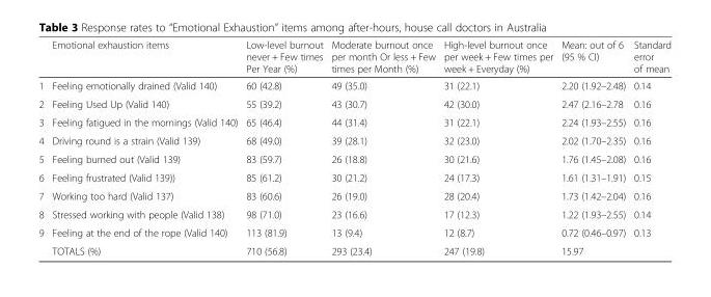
<table><thead><tr><td></td><td>Emotional exhaustion items</td><td>Low-level burnout never + Few times Per Year (%)</td><td>Moderate burnout once per month Or less + Few times per Month (%)</td><td>High-level burnout once per week + Few times per week + Everyday (%)</td><td>Mean: out of 6 (95 % CI)</td><td>Standard error of mean</td></tr></thead><tbody><tr><td>1</td><td>Feeling emotionally drained (Valid 140)</td><td>60 (42.8)</td><td>49 (35.0)</td><td>31 (22.1)</td><td>2.20 (1.92–2.48)</td><td>0.14</td></tr><tr><td>2</td><td>Feeling Used Up (Valid 140)</td><td>55 (39.2)</td><td>43 (30.7)</td><td>42 (30.0)</td><td>2.47 (2.16–2.78</td><td>0.16</td></tr><tr><td>3</td><td>Feeling fatigued in the mornings (Valid 140)</td><td>65 (46.4)</td><td>44 (31.4)</td><td>31 (22.1)</td><td>2.24 (1.93–2.55)</td><td>0.16</td></tr><tr><td>4</td><td>Driving round is a strain (Valid 139)</td><td>68 (49.0)</td><td>39 (28.1)</td><td>32 (23.0)</td><td>2.02 (1.70–2.35)</td><td>0.16</td></tr><tr><td>5</td><td>Feeling burned out (Valid 139)</td><td>83 (59.7)</td><td>26 (18.8)</td><td>30 (21.6)</td><td>1.76 (1.45–2.08)</td><td>0.16</td></tr><tr><td>6</td><td>Feeling frustrated (Valid 139))</td><td>85 (61.2)</td><td>30 (21.2)</td><td>24 (17.3)</td><td>1.61 (1.31–1.91)</td><td>0.15</td></tr><tr><td>7</td><td>Working too hard (Valid 137)</td><td>83 (60.6)</td><td>26 (19.0)</td><td>28 (20.4)</td><td>1.73 (1.42–2.04)</td><td>0.16</td></tr><tr><td>8</td><td>Stressed working with people (Valid 138)</td><td>98 (71.0)</td><td>23 (16.6)</td><td>17 (12.3)</td><td>1.22 (1.93–2.55)</td><td>0.14</td></tr><tr><td rowspan="2">9</td><td>Feeling at the end of the rope (Valid 140)</td><td>113 (81.9)</td><td>13 (9.4)</td><td>12 (8.7)</td><td>0.72 (0.46–0.97)</td><td>0.13</td></tr><tr><td>TOTALS (%)</td><td>710 (56.8)</td><td>293 (23.4)</td><td>247 (19.8)</td><td>15.97</td><td></td></tr></tbody></table>